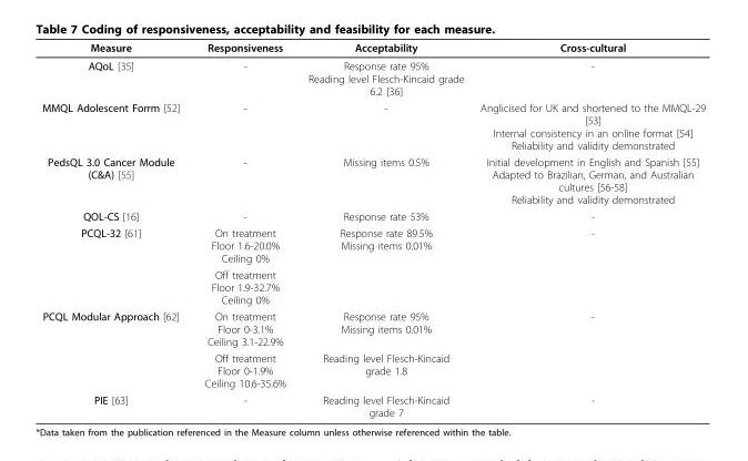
<table><thead><tr><td>Measure</td><td>Responsiveness</td><td>Acceptability</td><td>Cross-cultural</td></tr></thead><tbody><tr><td>AQoL [35]</td><td>-</td><td>Response rate 95% Reading level Flesch-Kincaid grade 6.2 [36]</td><td>-</td></tr><tr><td>MMQL Adolescent Forrm [52]</td><td>-</td><td>-</td><td>Anglicised for UK and shortened to the MMQL-29 [53] Internal consistency in an online format [54] Reliability and validity demonstrated</td></tr><tr><td>PedsQL 3.0 Cancer Module (C&amp;A) [55]</td><td>-</td><td>Missing items 0.5%</td><td>Initial development in English and Spanish [55] Adapted to Brazilian, German, and Australian cultures [56-58] Reliability and validity demonstrated</td></tr><tr><td>QOL-CS [16]</td><td>-</td><td>Response rate 53%</td><td>-</td></tr><tr><td rowspan="2">PCQL-32 [61]</td><td>On treatment Floor 1.6-20.0% Ceiling 0%</td><td>Response rate 89.5% Missing items 0.01%</td><td>-</td></tr><tr><td>Off treatment Floor 1.9-32.7% Ceiling 0%</td><td></td><td></td></tr><tr><td rowspan="2">PCQL Modular Approach [62]</td><td>On treatment Floor 0-3.1% Ceiling 3.1-22.9%</td><td>Response rate 95% Missing items 0.01%</td><td>-</td></tr><tr><td>Off treatment Floor 0-1.9% Ceiling 10.6-35.6%</td><td>Reading level Flesch-Kincaid grade 1.8</td><td></td></tr><tr><td>PIE [63]</td><td>-</td><td>Reading level Flesch-Kincaid grade 7</td><td>-</td></tr></tbody></table>